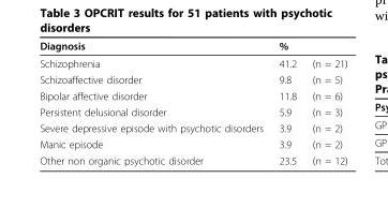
<table><thead><tr><td rowspan="2">Diagnosis Schizophrenia</td><td colspan="2">%</td></tr><tr><td>41.2</td><td>(n = 21)</td></tr></thead><tbody><tr><td>Schizoaffective disorder</td><td>9.8</td><td>(n = 5)</td></tr><tr><td>Bipolar affective disorder</td><td>11.8</td><td>(n = 6)</td></tr><tr><td>Persistent delusional disorder</td><td>5.9</td><td>(n = 3)</td></tr><tr><td>Severe depressive episode with psychotic disorders</td><td>3.9</td><td>(n = 2)</td></tr><tr><td>Manic episode</td><td>3.9</td><td>(n = 2)</td></tr><tr><td>Other non organic psychotic disorder</td><td>23.5</td><td>(n = 12)</td></tr></tbody></table>